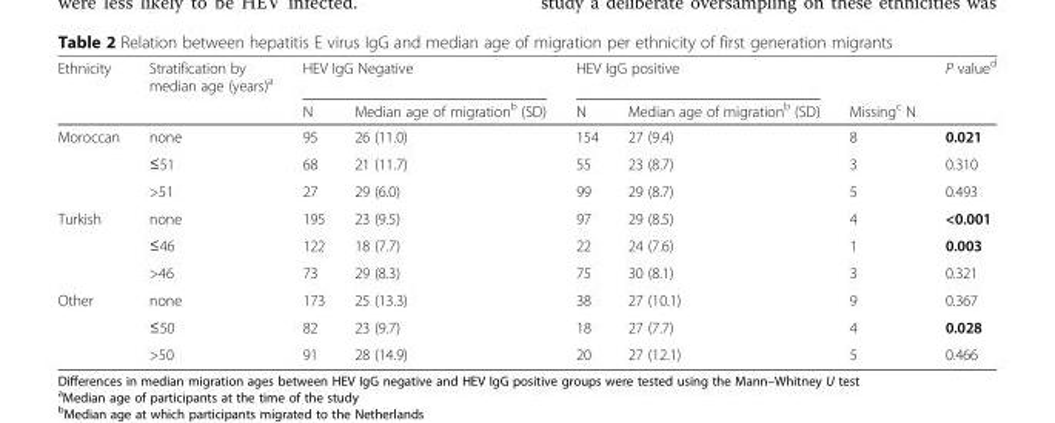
<table><thead><tr><td rowspan="2">Ethnicity</td><td rowspan="2">Stratification by median age (years)<sup>a</sup></td><td colspan="2">HEV IgG Negative</td><td colspan="2">HEV IgG positive</td><td rowspan="2">Missing<sup>c</sup> N</td><td rowspan="2">P value<sup>d</sup></td></tr><tr><td>N</td><td>Median age of migration<sup>b</sup> (SD)</td><td>N</td><td>Median age of migration<sup>b</sup> (SD)</td></tr></thead><tbody><tr><td rowspan="3">Moroccan</td><td>none</td><td>95</td><td>26 (11.0)</td><td>154</td><td>27 (9.4)</td><td>8</td><td>0.021</td></tr><tr><td>≤51</td><td>68</td><td>21 (11.7)</td><td>55</td><td>23 (8.7)</td><td>3</td><td>0.310</td></tr><tr><td>&gt;51</td><td>27</td><td>29 (6.0)</td><td>99</td><td>29 (8.7)</td><td>5</td><td>0.493</td></tr><tr><td rowspan="3">Turkish</td><td>none</td><td>195</td><td>23 (9.5)</td><td>97</td><td>29 (8.5)</td><td>4</td><td>&lt;0.001</td></tr><tr><td>≤46</td><td>122</td><td>18 (7.7)</td><td>22</td><td>24 (7.6)</td><td>1</td><td>0.003</td></tr><tr><td>&gt;46</td><td>73</td><td>29 (8.3)</td><td>75</td><td>30 (8.1)</td><td>3</td><td>0.321</td></tr><tr><td rowspan="3">Other</td><td>none</td><td>173</td><td>25 (13.3)</td><td>38</td><td>27 (10.1)</td><td>9</td><td>0.367</td></tr><tr><td>≤50</td><td>82</td><td>23 (9.7)</td><td>18</td><td>27 (7.7)</td><td>4</td><td>0.028</td></tr><tr><td>&gt;50</td><td>91</td><td>28 (14.9)</td><td>20</td><td>27 (12.1)</td><td>5</td><td>0.466</td></tr></tbody></table>